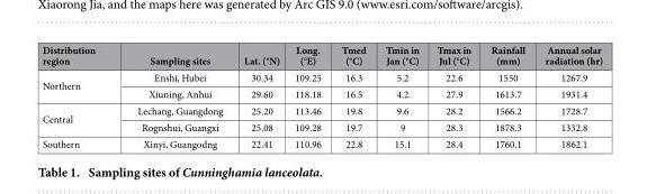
<table><thead><tr><td>Distribution region</td><td>Sampling sites</td><td>Lat. (°N)</td><td>Long. (°E)</td><td>Tmed (°C)</td><td>Tmin in Jan (°C)</td><td>Tmax in Jul (°C)</td><td>Rainfall (mm)</td><td>Annual solar radiation (hr)</td></tr></thead><tbody><tr><td rowspan="2">Northern</td><td>Enshi, Hubei</td><td>30.34</td><td>109.25</td><td>16.3</td><td>5.2</td><td>22.6</td><td>1550</td><td>1267.9</td></tr><tr><td>Xiuning, Anhui</td><td>29.60</td><td>118.18</td><td>16.5</td><td>4.2</td><td>27.9</td><td>1613.7</td><td>1931.4</td></tr><tr><td rowspan="2">Central</td><td>Lechang, Guangdong</td><td>25.20</td><td>113.46</td><td>19.8</td><td>9.6</td><td>28.2</td><td>1566.2</td><td>1728.7</td></tr><tr><td>Rognshui, Guangxi</td><td>25.08</td><td>109.28</td><td>19.7</td><td>9</td><td>28.3</td><td>1878.3</td><td>1332.8</td></tr><tr><td>Southern</td><td>Xinyi, Guangodng</td><td>22.41</td><td>110.96</td><td>22.8</td><td>15.1</td><td>28.4</td><td>1760.1</td><td>1862.1</td></tr></tbody></table>